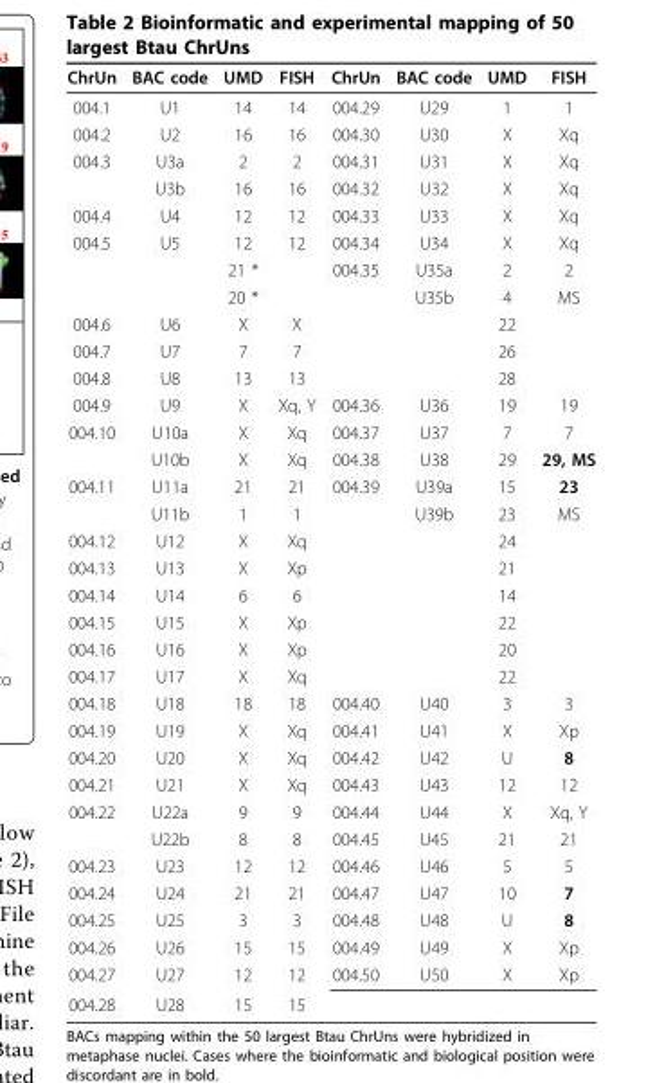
<table><thead><tr><td>ChrUn</td><td>BAC code</td><td>UMD</td><td>FISH</td><td>ChrUn</td><td>BAC code</td><td>UMD</td><td>FISH</td></tr></thead><tbody><tr><td>004.1</td><td>U1</td><td>14</td><td>14</td><td>004.29</td><td>U29</td><td>1</td><td>1</td></tr><tr><td>004.2</td><td>U2</td><td>16</td><td>16</td><td>004.30</td><td>U30</td><td>X</td><td>Xq</td></tr><tr><td rowspan="2">004.3</td><td>U3a</td><td>2</td><td>2</td><td>004.31</td><td>U31</td><td>X</td><td>Xq</td></tr><tr><td>U3b</td><td>16</td><td>16</td><td>004.32</td><td>U32</td><td>X</td><td>Xq</td></tr><tr><td>004.4</td><td>U4</td><td>12</td><td>12</td><td>004.33</td><td>U33</td><td>X</td><td>Xq</td></tr><tr><td rowspan="3">004.5</td><td>U5</td><td>12</td><td>12</td><td>004.34</td><td>U34</td><td>X</td><td>Xq</td></tr><tr><td></td><td>21 *</td><td></td><td>004.35</td><td>U35a</td><td>2</td><td>2</td></tr><tr><td></td><td>20 *</td><td></td><td></td><td>U35b</td><td>4</td><td>MS</td></tr><tr><td>004.6</td><td>U6</td><td>X</td><td>X</td><td></td><td></td><td>22</td><td></td></tr><tr><td>004.7</td><td>U7</td><td>7</td><td>7</td><td></td><td></td><td>26</td><td></td></tr><tr><td>004.8</td><td>U8</td><td>13</td><td>13</td><td></td><td></td><td>28</td><td></td></tr><tr><td>004.9</td><td>U9</td><td>X</td><td>Xq, Y</td><td>004.36</td><td>U36</td><td>19</td><td>19</td></tr><tr><td rowspan="2">004.10</td><td>U10a</td><td>X</td><td>Xq</td><td>004.37</td><td>U37</td><td>7</td><td>7</td></tr><tr><td>U10b</td><td>X</td><td>Xq</td><td>004.38</td><td>U38</td><td>29</td><td>29, MS</td></tr><tr><td rowspan="2">004.11</td><td>U11a</td><td>21</td><td>21</td><td>004.39</td><td>U39a</td><td>15</td><td>23</td></tr><tr><td>U11b</td><td>1</td><td>1</td><td></td><td>U39b</td><td>23</td><td>MS</td></tr><tr><td>004.12</td><td>U12</td><td>X</td><td>Xq</td><td></td><td></td><td>24</td><td></td></tr><tr><td>004.13</td><td>U13</td><td>X</td><td>Xp</td><td></td><td></td><td>21</td><td></td></tr><tr><td>004.14</td><td>U14</td><td>6</td><td>6</td><td></td><td></td><td>14</td><td></td></tr><tr><td>004.15</td><td>U15</td><td>X</td><td>Xp</td><td></td><td></td><td>22</td><td></td></tr><tr><td>004.16</td><td>U16</td><td>X</td><td>Xp</td><td></td><td></td><td>20</td><td></td></tr><tr><td>004.17</td><td>U17</td><td>X</td><td>Xq</td><td></td><td></td><td>22</td><td></td></tr><tr><td>004.18</td><td>U18</td><td>18</td><td>18</td><td>004.40</td><td>U40</td><td>3</td><td>3</td></tr><tr><td>004.19</td><td>U19</td><td>X</td><td>Xq</td><td>004.41</td><td>U41</td><td>X</td><td>Xp</td></tr><tr><td>004.20</td><td>U20</td><td>X</td><td>Xq</td><td>004.42</td><td>U42</td><td>U</td><td>8</td></tr><tr><td>004.21</td><td>U21</td><td>X</td><td>Xq</td><td>004.43</td><td>U43</td><td>12</td><td>12</td></tr><tr><td rowspan="2">004.22</td><td>U22a</td><td>9</td><td>9</td><td>004.44</td><td>U44</td><td>X</td><td>Xq, Y</td></tr><tr><td>U22b</td><td>8</td><td>8</td><td>004.45</td><td>U45</td><td>21</td><td>21</td></tr><tr><td>004.23</td><td>U23</td><td>12</td><td>12</td><td>004.46</td><td>U46</td><td>5</td><td>5</td></tr><tr><td>004.24</td><td>U24</td><td>21</td><td>21</td><td>004.47</td><td>U47</td><td>10</td><td>7</td></tr><tr><td>004.25</td><td>U25</td><td>3</td><td>3</td><td>004.48</td><td>U48</td><td>U</td><td>8</td></tr><tr><td>004.26</td><td>U26</td><td>15</td><td>15</td><td>004.49</td><td>U49</td><td>X</td><td>Xp</td></tr><tr><td>004.27</td><td>U27</td><td>12</td><td>12</td><td>004.50</td><td>U50</td><td>X</td><td>Xp</td></tr><tr><td>004.28</td><td>U28</td><td>15</td><td>15</td><td></td><td></td><td></td><td></td></tr></tbody></table>